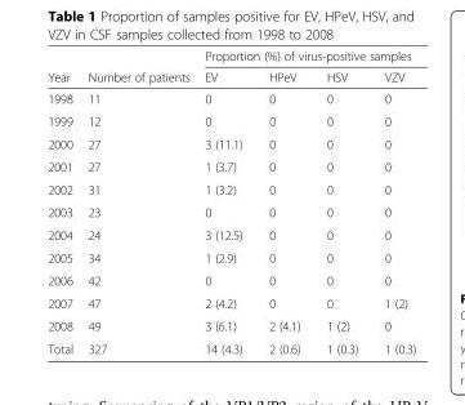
<table><thead><tr><td rowspan="2">Year</td><td rowspan="2">Number of patients</td><td colspan="4">Proportion (%) of virus-positive samples</td></tr><tr><td>EV</td><td>HPeV</td><td>HSV</td><td>VZV</td></tr></thead><tbody><tr><td>1998</td><td>11</td><td>0</td><td>0</td><td>0</td><td>0</td></tr><tr><td>1999</td><td>12</td><td>0</td><td>0</td><td>0</td><td>0</td></tr><tr><td>2000</td><td>27</td><td>3 (11.1)</td><td>0</td><td>0</td><td>0</td></tr><tr><td>2001</td><td>27</td><td>1 (3.7)</td><td>0</td><td>0</td><td>0</td></tr><tr><td>2002</td><td>31</td><td>1 (3.2)</td><td>0</td><td>0</td><td>0</td></tr><tr><td>2003</td><td>23</td><td>0</td><td>0</td><td>0</td><td>0</td></tr><tr><td>2004</td><td>24</td><td>3 (12.5)</td><td>0</td><td>0</td><td>0</td></tr><tr><td>2005</td><td>34</td><td>1 (2.9)</td><td>0</td><td>0</td><td>0</td></tr><tr><td>2006</td><td>42</td><td>0</td><td>0</td><td>0</td><td>0</td></tr><tr><td>2007</td><td>47</td><td>2 (4.2)</td><td>0</td><td>0</td><td>1 (2)</td></tr><tr><td>2008</td><td>49</td><td>3 (6.1)</td><td>2 (4.1)</td><td>1 (2)</td><td>0</td></tr><tr><td>Total</td><td>327</td><td>14 (4.3)</td><td>2 (0.6)</td><td>1 (0.3)</td><td>1 (0.3)</td></tr></tbody></table>